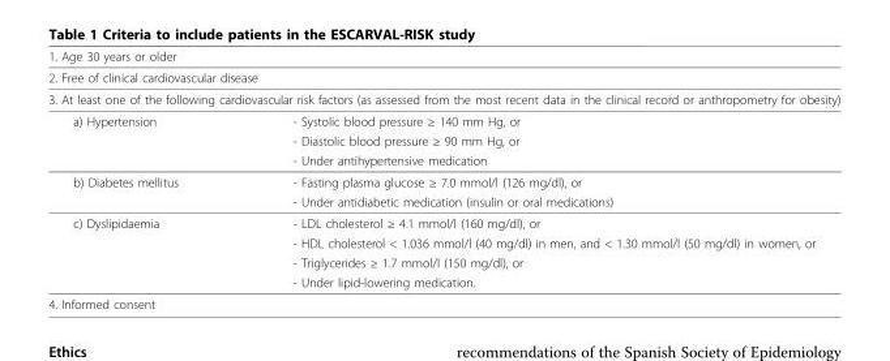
<table><thead><tr><td>1. Age 30 years or older</td><td></td></tr></thead><tbody><tr><td colspan="2">2. Free of clinical cardiovascular disease</td></tr><tr><td colspan="2">3. At least one of the following cardiovascular risk factors (as assessed from the most recent data in the clinical record or anthropometry for obesity)</td></tr><tr><td rowspan="3">a) Hypertension</td><td>- Systolic blood pressure ≥ 140 mm Hg, or</td></tr><tr><td>- Diastolic blood pressure ≥ 90 mm Hg, or</td></tr><tr><td>- Under antihypertensive medication</td></tr><tr><td rowspan="2">b) Diabetes mellitus</td><td>- Fasting plasma glucose ≥ 7.0 mmol/l (126 mg/dl), or</td></tr><tr><td>- Under antidiabetic medication (insulin or oral medications)</td></tr><tr><td rowspan="4">c) Dyslipidaemia</td><td>- LDL cholesterol ≥ 4.1 mmol/l (160 mg/dl), or</td></tr><tr><td>- HDL cholesterol &lt; 1.036 mmol/l (40 mg/dl) in men, and &lt; 1.30 mmol/l (50 mg/dl) in women, or</td></tr><tr><td>- Triglycerides ≥ 1.7 mmol/l (150 mg/dl), or</td></tr><tr><td>- Under lipid-lowering medication.</td></tr><tr><td colspan="2">4. Informed consent</td></tr></tbody></table>